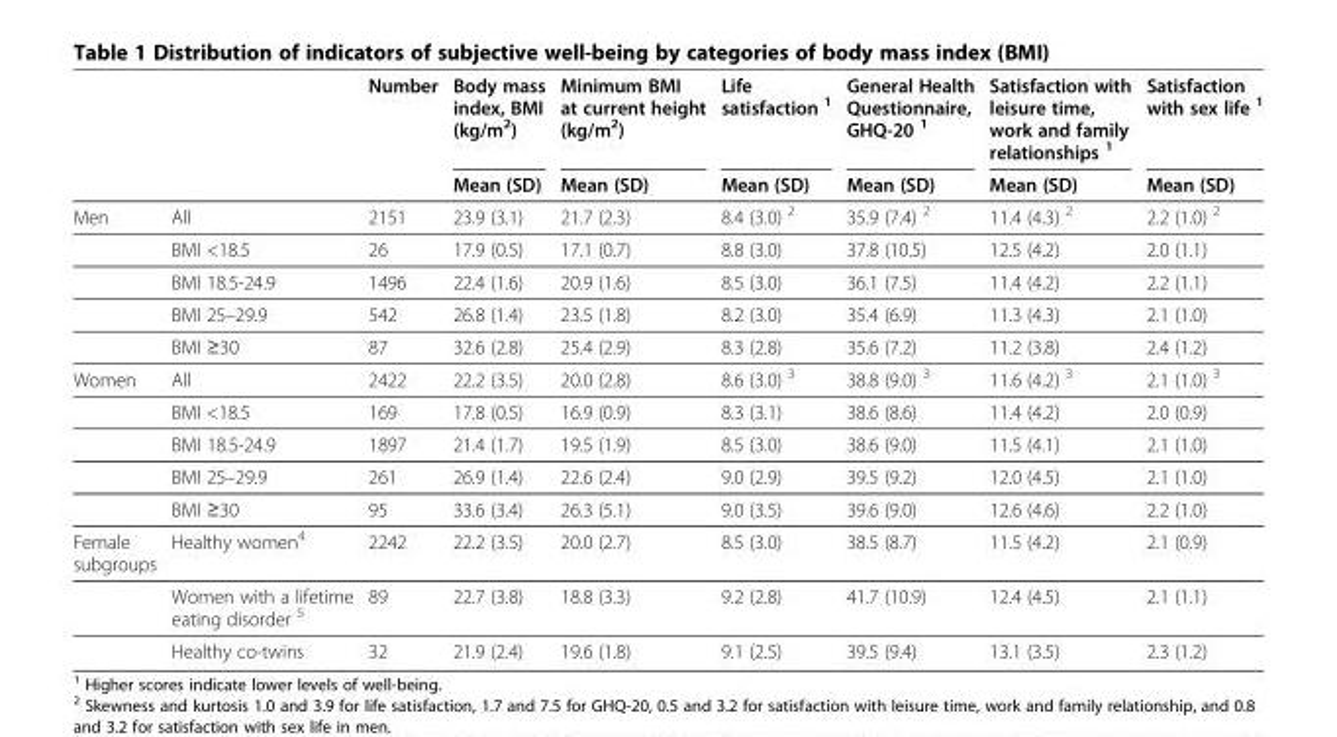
<table><thead><tr><td rowspan="2"></td><td rowspan="2"></td><td rowspan="2">Number</td><td rowspan="2">Body mass index, BMI (kg/m<sup>2</sup>) Mean (SD)</td><td rowspan="2">Minimum BMI at current height (kg/m<sup>2</sup>) Mean (SD)</td><td rowspan="2">Life satisfaction <sup>1</sup> Mean (SD)</td><td rowspan="2">General Health Questionnaire, GHQ-20 <sup>1</sup> Mean (SD)</td><td rowspan="2">Satisfaction with leisure time, work and family relationships <sup>1</sup> Mean (SD)</td><td rowspan="2">Satisfaction with sex life <sup>1</sup> Mean (SD)</td></tr><tr></tr></thead><tbody><tr><td rowspan="5">Men</td><td>All</td><td>2151</td><td>23.9 (3.1)</td><td>21.7 (2.3)</td><td>8.4 (3.0) <sup>2</sup></td><td>35.9 (7.4) <sup>2</sup></td><td>11.4 (4.3) <sup>2</sup></td><td>2.2 (1.0) <sup>2</sup></td></tr><tr><td>BMI &lt;18.5</td><td>26</td><td>17.9 (0.5)</td><td>17.1 (0.7)</td><td>8.8 (3.0)</td><td>37.8 (10.5)</td><td>12.5 (4.2)</td><td>2.0 (1.1)</td></tr><tr><td>BMI 18.5-24.9</td><td>1496</td><td>22.4 (1.6)</td><td>20.9 (1.6)</td><td>8.5 (3.0)</td><td>36.1 (7.5)</td><td>11.4 (4.2)</td><td>2.2 (1.1)</td></tr><tr><td>BMI 25–29.9</td><td>542</td><td>26.8 (1.4)</td><td>23.5 (1.8)</td><td>8.2 (3.0)</td><td>35.4 (6.9)</td><td>11.3 (4.3)</td><td>2.1 (1.0)</td></tr><tr><td>BMI ≥30</td><td>87</td><td>32.6 (2.8)</td><td>25.4 (2.9)</td><td>8.3 (2.8)</td><td>35.6 (7.2)</td><td>11.2 (3.8)</td><td>2.4 (1.2)</td></tr><tr><td rowspan="5">Women</td><td>All</td><td>2422</td><td>22.2 (3.5)</td><td>20.0 (2.8)</td><td>8.6 (3.0) <sup>3</sup></td><td>38.8 (9.0) <sup>3</sup></td><td>11.6 (4.2) <sup>3</sup></td><td>2.1 (1.0) <sup>3</sup></td></tr><tr><td>BMI &lt;18.5</td><td>169</td><td>17.8 (0.5)</td><td>16.9 (0.9)</td><td>8.3 (3.1)</td><td>38.6 (8.6)</td><td>11.4 (4.2)</td><td>2.0 (0.9)</td></tr><tr><td>BMI 18.5-24.9</td><td>1897</td><td>21.4 (1.7)</td><td>19.5 (1.9)</td><td>8.5 (3.0)</td><td>38.6 (9.0)</td><td>11.5 (4.1)</td><td>2.1 (1.0)</td></tr><tr><td>BMI 25–29.9</td><td>261</td><td>26.9 (1.4)</td><td>22.6 (2.4)</td><td>9.0 (2.9)</td><td>39.5 (9.2)</td><td>12.0 (4.5)</td><td>2.1 (1.0)</td></tr><tr><td>BMI ≥30</td><td>95</td><td>33.6 (3.4)</td><td>26.3 (5.1)</td><td>9.0 (3.5)</td><td>39.6 (9.0)</td><td>12.6 (4.6)</td><td>2.2 (1.0)</td></tr><tr><td rowspan="3">Female subgroups</td><td>Healthy women<sup>4</sup></td><td>2242</td><td>22.2 (3.5)</td><td>20.0 (2.7)</td><td>8.5 (3.0)</td><td>38.5 (8.7)</td><td>11.5 (4.2)</td><td>2.1 (0.9)</td></tr><tr><td>Women with a lifetime eating disorder <sup>5</sup></td><td>89</td><td>22.7 (3.8)</td><td>18.8 (3.3)</td><td>9.2 (2.8)</td><td>41.7 (10.9)</td><td>12.4 (4.5)</td><td>2.1 (1.1)</td></tr><tr><td>Healthy co-twins</td><td>32</td><td>21.9 (2.4)</td><td>19.6 (1.8)</td><td>9.1 (2.5)</td><td>39.5 (9.4)</td><td>13.1 (3.5)</td><td>2.3 (1.2)</td></tr></tbody></table>